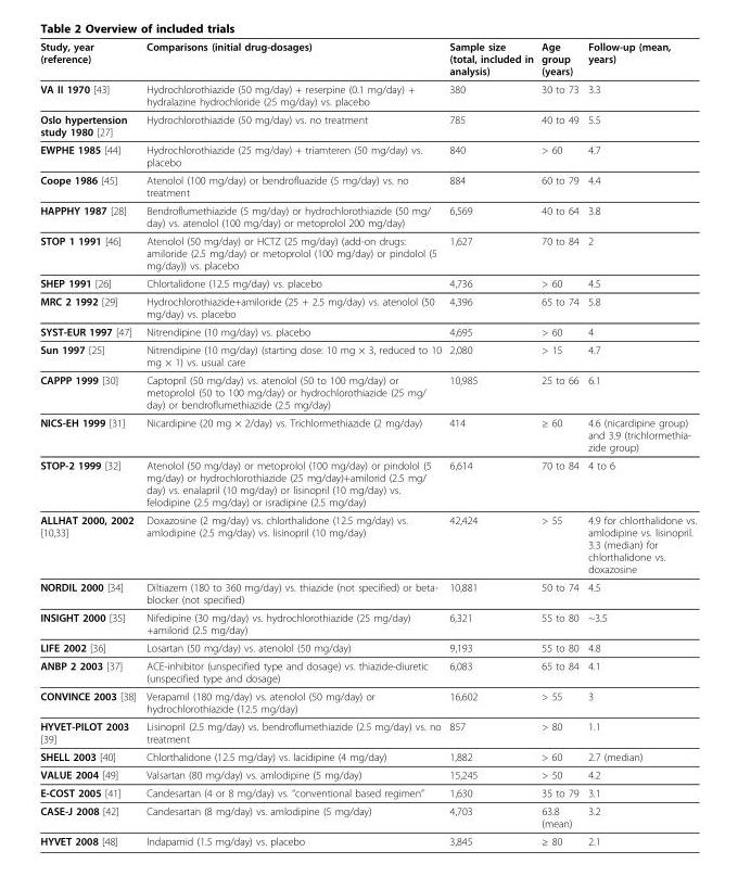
<table><thead><tr><td>Study, year (reference)</td><td>Comparisons (initial drug-dosages)</td><td>Sample size (total, included in analysis)</td><td>Age group (years)</td><td>Follow-up (mean, years)</td></tr></thead><tbody><tr><td>VA II 1970 [43]</td><td>Hydrochlorothiazide (50 mg/day) + reserpine (0.1 mg/day) + hydralazine hydrochloride (25 mg/day) vs. placebo</td><td>380</td><td>30 to 73</td><td>3.3</td></tr><tr><td>Oslo hypertension study 1980 [27]</td><td>Hydrochlorothiazide (50 mg/day) vs. no treatment</td><td>785</td><td>40 to 49</td><td>5.5</td></tr><tr><td>EWPHE 1985 [44]</td><td>Hydrochlorothiazide (25 mg/day) + triamteren (50 mg/day) vs. placebo</td><td>840</td><td>&gt; 60</td><td>4.7</td></tr><tr><td>Coope 1986 [45]</td><td>Atenolol (100 mg/day) or bendrofluazide (5 mg/day) vs. no treatment</td><td>884</td><td>60 to 79</td><td>4.4</td></tr><tr><td>HAPPHY 1987 [28]</td><td>Bendroflumethiazide (5 mg/day) or hydrochlorothiazide (50 mg/ day) vs. atenolol (100 mg/day) or metoprolol 200 mg/day)</td><td>6,569</td><td>40 to 64</td><td>3.8</td></tr><tr><td>STOP 1 1991 [46]</td><td>Atenolol (50 mg/day) or HCTZ (25 mg/day) (add-on drugs: amiloride (2.5 mg/day) or metoprolol (100 mg/day) or pindolol (5 mg/day)) vs. placebo</td><td>1,627</td><td>70 to 84</td><td>2</td></tr><tr><td>SHEP 1991 [26]</td><td>Chlortalidone (12.5 mg/day) vs. placebo</td><td>4,736</td><td>&gt; 60</td><td>4.5</td></tr><tr><td>MRC 2 1992 [29]</td><td>Hydrochlorothiazide+amiloride (25 + 2.5 mg/day) vs. atenolol (50 mg/day) vs. placebo</td><td>4,396</td><td>65 to 74</td><td>5.8</td></tr><tr><td>SYST-EUR 1997 [47]</td><td>Nitrendipine (10 mg/day) vs. placebo</td><td>4,695</td><td>&gt; 60</td><td>4</td></tr><tr><td>Sun 1997 [25]</td><td>Nitrendipine (10 mg/day) (starting dose: 10 mg × 3, reduced to 10 mg × 1) vs. usual care</td><td>2,080</td><td>&gt; 15</td><td>4.7</td></tr><tr><td>CAPPP 1999 [30]</td><td>Captopril (50 mg/day) vs. atenolol (50 to 100 mg/day) or metoprolol (50 to 100 mg/day) or hydrochlorothiazide (25 mg/ day) or bendroflumethiazide (2.5 mg/day)</td><td>10,985</td><td>25 to 66</td><td>6.1</td></tr><tr><td>NICS-EH 1999 [31]</td><td>Nicardipine (20 mg × 2/day) vs. Trichlormethiazide (2 mg/day)</td><td>414</td><td>≥ 60</td><td>4.6 (nicardipine group) and 3.9 (trichlormethia- zide group)</td></tr><tr><td>STOP-2 1999 [32]</td><td>Atenolol (50 mg/day) or metoprolol (100 mg/day) or pindolol (5 mg/day) or hydrochlorothiazide (25 mg/day)+amilorid (2.5 mg/ day) vs. enalapril (10 mg/day) or lisinopril (10 mg/day) vs. felodipine (2.5 mg/day) or isradipine (2.5 mg/day)</td><td>6,614</td><td>70 to 84</td><td>4 to 6</td></tr><tr><td>ALLHAT 2000, 2002 [10,33]</td><td>Doxazosine (2 mg/day) vs. chlorthalidone (12.5 mg/day) vs. amlodipine (2.5 mg/day) vs. lisinopril (10 mg/day)</td><td>42,424</td><td>&gt; 55</td><td>4.9 for chlorthalidone vs. amlodipine vs. lisinopril. 3.3 (median) for chlorthalidone vs. doxazosine</td></tr><tr><td>NORDIL 2000 [34]</td><td>Diltiazem (180 to 360 mg/day) vs. thiazide (not specified) or beta- blocker (not specified)</td><td>10,881</td><td>50 to 74</td><td>4.5</td></tr><tr><td>INSIGHT 2000 [35]</td><td>Nifedipine (30 mg/day) vs. hydrochlorothiazide (25 mg/day) +amilorid (2.5 mg/day)</td><td>6,321</td><td>55 to 80</td><td>~3.5</td></tr><tr><td>LIFE 2002 [36]</td><td>Losartan (50 mg/day) vs. atenolol (50 mg/day)</td><td>9,193</td><td>55 to 80</td><td>4.8</td></tr><tr><td>ANBP 2 2003 [37]</td><td>ACE-inhibitor (unspecified type and dosage) vs. thiazide-diuretic (unspecified type and dosage)</td><td>6,083</td><td>65 to 84</td><td>4.1</td></tr><tr><td>CONVINCE 2003 [38]</td><td>Verapamil (180 mg/day) vs. atenolol (50 mg/day) or hydrochlorothiazide (12.5 mg/day)</td><td>16,602</td><td>&gt; 55</td><td>3</td></tr><tr><td>HYVET-PILOT 2003 [39]</td><td>Lisinopril (2.5 mg/day) vs. bendroflumethiazide (2.5 mg/day) vs. no treatment</td><td>857</td><td>&gt; 80</td><td>1.1</td></tr><tr><td>SHELL 2003 [40]</td><td>Chlorthalidone (12.5 mg/day) vs. lacidipine (4 mg/day)</td><td>1,882</td><td>&gt; 60</td><td>2.7 (median)</td></tr><tr><td>VALUE 2004 [49]</td><td>Valsartan (80 mg/day) vs. amlodipine (5 mg/day)</td><td>15,245</td><td>&gt; 50</td><td>4.2</td></tr><tr><td>E-COST 2005 [41]</td><td>Candesartan (4 or 8 mg/day) vs. “conventional based regimen”</td><td>1,630</td><td>35 to 79</td><td>3.1</td></tr><tr><td>CASE-J 2008 [42]</td><td>Candesartan (8 mg/day) vs. amlodipine (5 mg/day)</td><td>4,703</td><td>63.8 (mean)</td><td>3.2</td></tr><tr><td>HYVET 2008 [48]</td><td>Indapamid (1.5 mg/day) vs. placebo</td><td>3,845</td><td>≥ 80</td><td>2.1</td></tr></tbody></table>